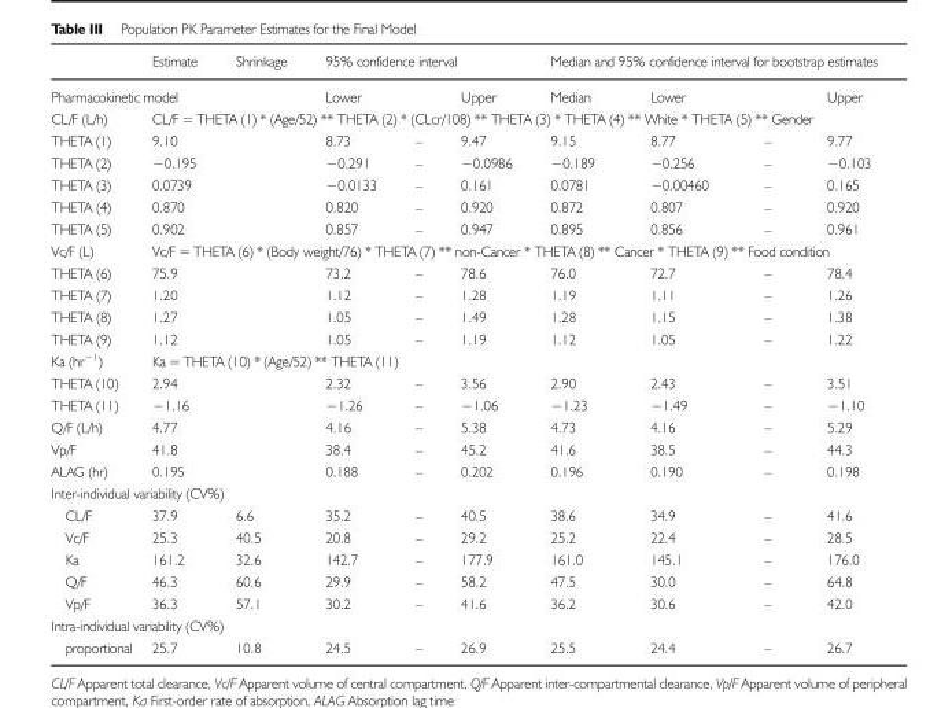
<table><thead><tr><td></td><td>Estimate</td><td rowspan="2">Shrinkage</td><td colspan="3">95% confidence interval</td><td colspan="4">Median and 95% confidence interval for bootstrap estimates</td></tr><tr><td colspan="2">Pharmacokinetic model</td><td>Lower</td><td></td><td>Upper</td><td>Median</td><td>Lower</td><td></td><td>Upper</td></tr></thead><tbody><tr><td>CL/F (L/h)</td><td colspan="9">CL/F = THETA (1) * (Age/52) ** THETA (2) * (CLcr/108) ** THETA (3) * THETA (4) ** White * THETA (5) ** Gender</td></tr><tr><td>THETA (1)</td><td>9.10</td><td></td><td>8.73</td><td>–</td><td>9.47</td><td>9.15</td><td>8.77</td><td>–</td><td>9.77</td></tr><tr><td>THETA (2)</td><td>−0.195</td><td></td><td>−0.291</td><td>–</td><td>−0.0986</td><td>−0.189</td><td>−0.256</td><td>–</td><td>−0.103</td></tr><tr><td>THETA (3)</td><td>0.0739</td><td></td><td>−0.0133</td><td>–</td><td>0.161</td><td>0.0781</td><td>−0.00460</td><td>–</td><td>0.165</td></tr><tr><td>THETA (4)</td><td>0.870</td><td></td><td>0.820</td><td>–</td><td>0.920</td><td>0.872</td><td>0.807</td><td>–</td><td>0.920</td></tr><tr><td>THETA (5)</td><td>0.902</td><td></td><td>0.857</td><td>–</td><td>0.947</td><td>0.895</td><td>0.856</td><td>–</td><td>0.961</td></tr><tr><td>Vc/F (L)</td><td colspan="9">Vc/F = THETA (6) * (Body weight/76) * THETA (7) ** non-Cancer * THETA (8) ** Cancer * THETA (9) ** Food condition</td></tr><tr><td>THETA (6)</td><td>75.9</td><td></td><td>73.2</td><td>–</td><td>78.6</td><td>76.0</td><td>72.7</td><td>–</td><td>78.4</td></tr><tr><td>THETA (7)</td><td>1.20</td><td></td><td>1.12</td><td>–</td><td>1.28</td><td>1.19</td><td>1.11</td><td>–</td><td>1.26</td></tr><tr><td>THETA (8)</td><td>1.27</td><td></td><td>1.05</td><td>–</td><td>1.49</td><td>1.28</td><td>1.15</td><td>–</td><td>1.38</td></tr><tr><td>THETA (9)</td><td>1.12</td><td></td><td>1.05</td><td>–</td><td>1.19</td><td>1.12</td><td>1.05</td><td>–</td><td>1.22</td></tr><tr><td>Ka (hr<sup>−1</sup>)</td><td colspan="9">Ka = THETA (10) * (Age/52) ** THETA (11)</td></tr><tr><td>THETA (10)</td><td>2.94</td><td></td><td>2.32</td><td>–</td><td>3.56</td><td>2.90</td><td>2.43</td><td>–</td><td>3.51</td></tr><tr><td>THETA (11)</td><td>−1.16</td><td></td><td>−1.26</td><td>–</td><td>−1.06</td><td>−1.23</td><td>−1.49</td><td>–</td><td>−1.10</td></tr><tr><td>Q/F (L/h)</td><td>4.77</td><td></td><td>4.16</td><td>–</td><td>5.38</td><td>4.73</td><td>4.16</td><td>–</td><td>5.29</td></tr><tr><td>Vp/F</td><td>41.8</td><td></td><td>38.4</td><td>–</td><td>45.2</td><td>41.6</td><td>38.5</td><td>–</td><td>44.3</td></tr><tr><td>ALAG (hr)</td><td>0.195</td><td></td><td>0.188</td><td>–</td><td>0.202</td><td>0.196</td><td>0.190</td><td>–</td><td>0.198</td></tr><tr><td colspan="10">Inter-individual variability (CV%)</td></tr><tr><td>CL/F</td><td>37.9</td><td>6.6</td><td>35.2</td><td>–</td><td>40.5</td><td>38.6</td><td>34.9</td><td>–</td><td>41.6</td></tr><tr><td>Vc/F</td><td>25.3</td><td>40.5</td><td>20.8</td><td>–</td><td>29.2</td><td>25.2</td><td>22.4</td><td>–</td><td>28.5</td></tr><tr><td>Ka</td><td>161.2</td><td>32.6</td><td>142.7</td><td>–</td><td>177.9</td><td>161.0</td><td>145.1</td><td>–</td><td>176.0</td></tr><tr><td>Q/F</td><td>46.3</td><td>60.6</td><td>29.9</td><td>–</td><td>58.2</td><td>47.5</td><td>30.0</td><td>–</td><td>64.8</td></tr><tr><td>Vp/F</td><td>36.3</td><td>57.1</td><td>30.2</td><td>–</td><td>41.6</td><td>36.2</td><td>30.6</td><td>–</td><td>42.0</td></tr><tr><td colspan="10">Intra-individual variability (CV%)</td></tr><tr><td>proportional</td><td>25.7</td><td>10.8</td><td>24.5</td><td>–</td><td>26.9</td><td>25.5</td><td>24.4</td><td>–</td><td>26.7</td></tr></tbody></table>